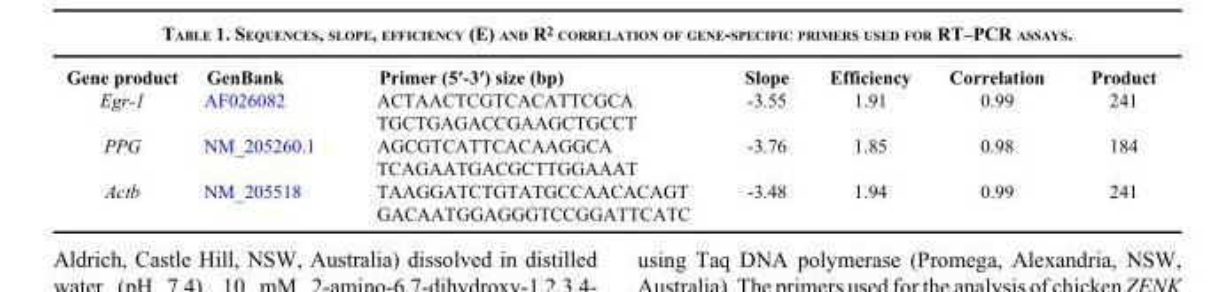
<table><thead><tr><td>Gene product</td><td>GenBank</td><td>Primer (5′-3′) size (bp)</td><td>Slope</td><td>Efficiency</td><td>Correlation</td><td>Product</td></tr></thead><tbody><tr><td rowspan="2">Egr-1</td><td rowspan="2">AF026082</td><td>ACTAACTCGTCACATTCGCA</td><td>-3.55</td><td>1.91</td><td>0.99</td><td>241</td></tr><tr><td>TGCTGAGACCGAAGCTGCCT</td><td></td><td></td><td></td><td></td></tr><tr><td rowspan="2">PPG</td><td rowspan="2">NM_205260.1</td><td>AGCGTCATTCACAAGGCA</td><td>-3.76</td><td>1.85</td><td>0.98</td><td>184</td></tr><tr><td>TCAGAATGACGCTTGGAAAT</td><td></td><td></td><td></td><td></td></tr><tr><td rowspan="2">Actb</td><td rowspan="2">NM_205518</td><td>TAAGGATCTGTATGCCAACACAGT</td><td>-3.48</td><td>1.94</td><td>0.99</td><td>241</td></tr><tr><td>GACAATGGAGGGTCCGGATTCATC</td><td></td><td></td><td></td><td></td></tr></tbody></table>